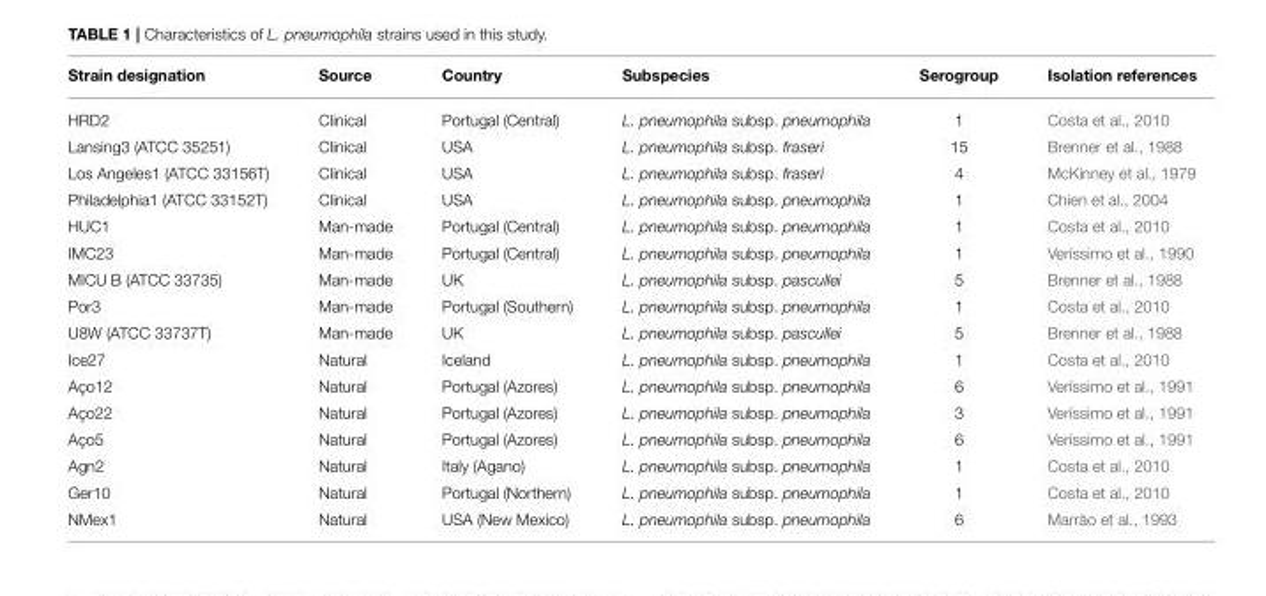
<table><thead><tr><td>Strain designation</td><td>Source</td><td>Country</td><td>Subspecies</td><td>Serogroup</td><td>Isolation references</td></tr></thead><tbody><tr><td>HRD2</td><td>Clinical</td><td>Portugal (Central)</td><td>L. pneumophila subsp. pneumophila</td><td>1</td><td>Costa et al., 2010</td></tr><tr><td>Lansing3 (ATCC 35251)</td><td>Clinical</td><td>USA</td><td>L. pneumophila subsp. fraseri</td><td>15</td><td>Brenner et al., 1988</td></tr><tr><td>Los Angeles1 (ATCC 33156T)</td><td>Clinical</td><td>USA</td><td>L. pneumophila subsp. fraseri</td><td>4</td><td>McKinney et al., 1979</td></tr><tr><td>Philadelphia1 (ATCC 33152T)</td><td>Clinical</td><td>USA</td><td>L. pneumophila subsp. pneumophila</td><td>1</td><td>Chien et al., 2004</td></tr><tr><td>HUC1</td><td>Man-made</td><td>Portugal (Central)</td><td>L. pneumophila subsp. pneumophila</td><td>1</td><td>Costa et al., 2010</td></tr><tr><td>IMC23</td><td>Man-made</td><td>Portugal (Central)</td><td>L. pneumophila subsp. pneumophila</td><td>1</td><td>Veríssimo et al., 1990</td></tr><tr><td>MICU B (ATCC 33735)</td><td>Man-made</td><td>UK</td><td>L. pneumophila subsp. pascullei</td><td>5</td><td>Brenner et al., 1988</td></tr><tr><td>Por3</td><td>Man-made</td><td>Portugal (Southern)</td><td>L. pneumophila subsp. pneumophila</td><td>1</td><td>Costa et al., 2010</td></tr><tr><td>U8W (ATCC 33737T)</td><td>Man-made</td><td>UK</td><td>L. pneumophila subsp. pascullei</td><td>5</td><td>Brenner et al., 1988</td></tr><tr><td>Ice27</td><td>Natural</td><td>Iceland</td><td>L. pneumophila subsp. pneumophila</td><td>1</td><td>Costa et al., 2010</td></tr><tr><td>Aço12</td><td>Natural</td><td>Portugal (Azores)</td><td>L. pneumophila subsp. pneumophila</td><td>6</td><td>Veríssimo et al., 1991</td></tr><tr><td>Aço22</td><td>Natural</td><td>Portugal (Azores)</td><td>L. pneumophila subsp. pneumophila</td><td>3</td><td>Veríssimo et al., 1991</td></tr><tr><td>Aço5</td><td>Natural</td><td>Portugal (Azores)</td><td>L. pneumophila subsp. pneumophila</td><td>6</td><td>Veríssimo et al., 1991</td></tr><tr><td>Agn2</td><td>Natural</td><td>Italy (Agano)</td><td>L. pneumophila subsp. pneumophila</td><td>1</td><td>Costa et al., 2010</td></tr><tr><td>Ger10</td><td>Natural</td><td>Portugal (Northern)</td><td>L. pneumophila subsp. pneumophila</td><td>1</td><td>Costa et al., 2010</td></tr><tr><td>NMex1</td><td>Natural</td><td>USA (New Mexico)</td><td>L. pneumophila subsp. pneumophila</td><td>6</td><td>Marrão et al., 1993</td></tr></tbody></table>